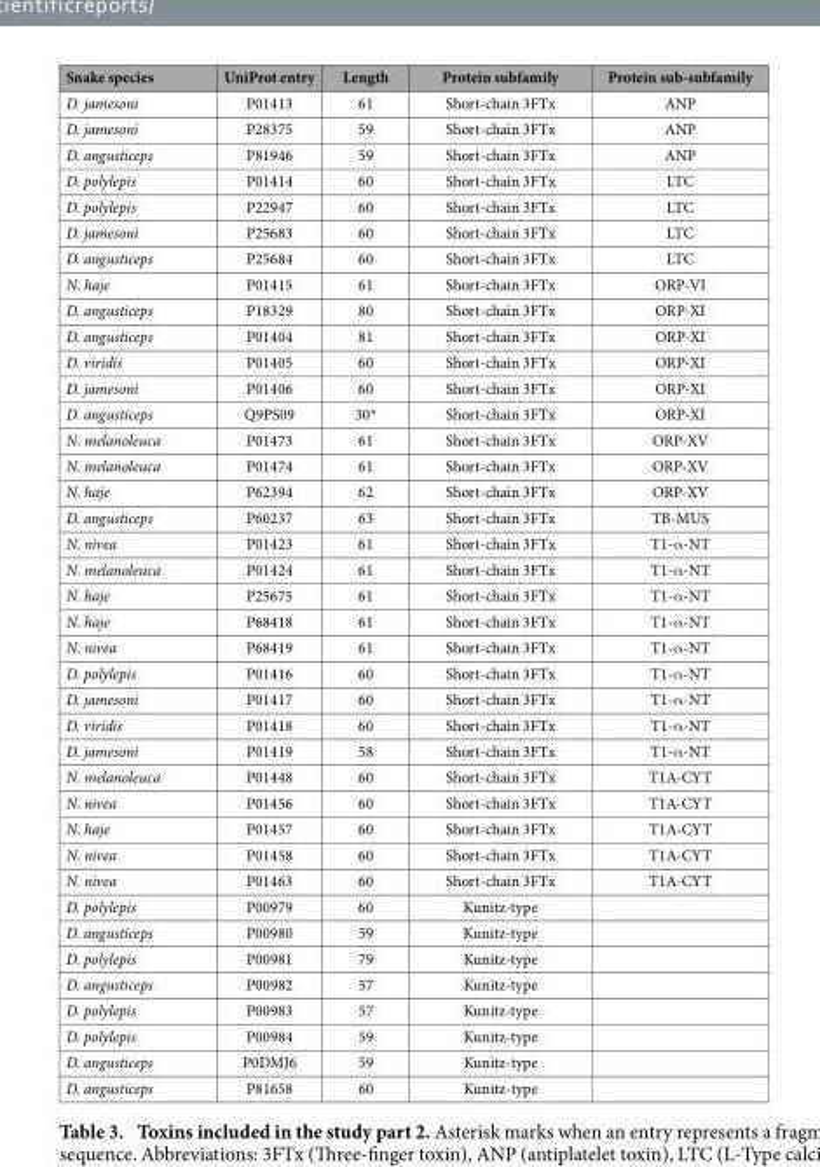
<table><thead><tr><td>Snake species</td><td>UniProt entry</td><td>Length</td><td>Protein subfamily</td><td>Protein sub-subfamily</td></tr></thead><tbody><tr><td>D. jamesoni</td><td>P01413</td><td>61</td><td>Short-chain 3FTx</td><td>ANP</td></tr><tr><td>D. jamesoni</td><td>P28375</td><td>59</td><td>Short-chain 3FTx</td><td>ANP</td></tr><tr><td>D. angusticeps</td><td>P81946</td><td>59</td><td>Short-chain 3FTx</td><td>ANP</td></tr><tr><td>D. polylepis</td><td>P01414</td><td>60</td><td>Short-chain 3FTx</td><td>LTC</td></tr><tr><td>D. polylepis</td><td>P22947</td><td>60</td><td>Short-chain 3FTx</td><td>LTC</td></tr><tr><td>D. jamesoni</td><td>P25683</td><td>60</td><td>Short-chain 3FTx</td><td>LTC</td></tr><tr><td>D. angusticeps</td><td>P25684</td><td>60</td><td>Short-chain 3FTx</td><td>LTC</td></tr><tr><td>N. haje</td><td>P01415</td><td>61</td><td>Short-chain 3FTx</td><td>ORP-VI</td></tr><tr><td>D. angusticeps</td><td>P18329</td><td>80</td><td>Short-chain 3FTx</td><td>ORP-XI</td></tr><tr><td>D. angusticeps</td><td>P01404</td><td>81</td><td>Short-chain 3FTx</td><td>ORP-XI</td></tr><tr><td>D. viridis</td><td>P01405</td><td>60</td><td>Short-chain 3FTx</td><td>ORP-XI</td></tr><tr><td>D. jamesoni</td><td>P01406</td><td>60</td><td>Short-chain 3FTx</td><td>ORP-XI</td></tr><tr><td>D. angusticeps</td><td>Q9PS09</td><td>30*</td><td>Short-chain 3FTx</td><td>ORP-XI</td></tr><tr><td>N. melanoleuca</td><td>P01473</td><td>61</td><td>Short-chain 3FTx</td><td>ORP-XV</td></tr><tr><td>N. melanoleuca</td><td>P01474</td><td>61</td><td>Short-chain 3FTx</td><td>ORP-XV</td></tr><tr><td>N. haje</td><td>P62394</td><td>62</td><td>Short-chain 3FTx</td><td>ORP-XV</td></tr><tr><td>D. angusticeps</td><td>P60237</td><td>63</td><td>Short-chain 3FTx</td><td>TB-MUS</td></tr><tr><td>N. nivea</td><td>P01423</td><td>61</td><td>Short-chain 3FTx</td><td>T1-α -NT</td></tr><tr><td>N. melanoleuca</td><td>P01424</td><td>61</td><td>Short-chain 3FTx</td><td>T1-α -NT</td></tr><tr><td>N. haje</td><td>P25675</td><td>61</td><td>Short-chain 3FTx</td><td>T1-α -NT</td></tr><tr><td>N. haje</td><td>P68418</td><td>61</td><td>Short-chain 3FTx</td><td>T1-α -NT</td></tr><tr><td>N. nivea</td><td>P68419</td><td>61</td><td>Short-chain 3FTx</td><td>T1-α -NT</td></tr><tr><td>D. polylepis</td><td>P01416</td><td>60</td><td>Short-chain 3FTx</td><td>T1-α -NT</td></tr><tr><td>D. jamesoni</td><td>P01417</td><td>60</td><td>Short-chain 3FTx</td><td>T1-α -NT</td></tr><tr><td>D. viridis</td><td>P01418</td><td>60</td><td>Short-chain 3FTx</td><td>T1-α -NT</td></tr><tr><td>D. jamesoni</td><td>P01419</td><td>58</td><td>Short-chain 3FTx</td><td>T1-α -NT</td></tr><tr><td>N. melanoleuca</td><td>P01448</td><td>60</td><td>Short-chain 3FTx</td><td>T1A-CYT</td></tr><tr><td>N. nivea</td><td>P01456</td><td>60</td><td>Short-chain 3FTx</td><td>T1A-CYT</td></tr><tr><td>N. haje</td><td>P01457</td><td>60</td><td>Short-chain 3FTx</td><td>T1A-CYT</td></tr><tr><td>N. nivea</td><td>P01458</td><td>60</td><td>Short-chain 3FTx</td><td>T1A-CYT</td></tr><tr><td>N. nivea</td><td>P01463</td><td>60</td><td>Short-chain 3FTx</td><td>T1A-CYT</td></tr><tr><td>D. polylepis</td><td>P00979</td><td>60</td><td>Kunitz-type</td><td></td></tr><tr><td>D. angusticeps</td><td>P00980</td><td>59</td><td>Kunitz-type</td><td></td></tr><tr><td>D. polylepis</td><td>P00981</td><td>79</td><td>Kunitz-type</td><td></td></tr><tr><td>D. angusticeps</td><td>P00982</td><td>57</td><td>Kunitz-type</td><td></td></tr><tr><td>D. polylepis</td><td>P00983</td><td>57</td><td>Kunitz-type</td><td></td></tr><tr><td>D. polylepis</td><td>P00984</td><td>59</td><td>Kunitz-type</td><td></td></tr><tr><td>D. angusticeps</td><td>P0DMJ6</td><td>59</td><td>Kunitz-type</td><td></td></tr><tr><td>D. angusticeps</td><td>P81658</td><td>60</td><td>Kunitz-type</td><td></td></tr></tbody></table>